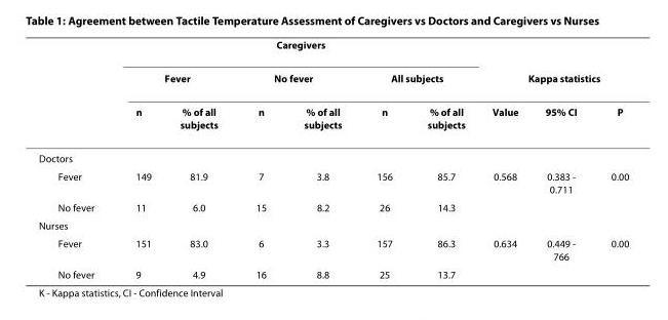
<table><thead><tr><td rowspan="3"></td><td colspan="6">Caregivers</td><td></td><td></td><td></td></tr><tr><td colspan="2">Fever</td><td colspan="2">No fever</td><td colspan="2">All subjects</td><td colspan="3">Kappa statistics</td></tr><tr><td>n</td><td>% of all subjects</td><td>n</td><td>% of all subjects</td><td>n</td><td>% of all subjects</td><td>Value</td><td>95% CI</td><td>P</td></tr></thead><tbody><tr><td colspan="10">Doctors</td></tr><tr><td>Fever</td><td>149</td><td>81.9</td><td>7</td><td>3.8</td><td>156</td><td>85.7</td><td>0.568</td><td>0.383 - 0.711</td><td>0.00</td></tr><tr><td>No fever</td><td>11</td><td>6.0</td><td>15</td><td>8.2</td><td>26</td><td>14.3</td><td></td><td></td><td></td></tr><tr><td colspan="10">Nurses</td></tr><tr><td>Fever</td><td>151</td><td>83.0</td><td>6</td><td>3.3</td><td>157</td><td>86.3</td><td>0.634</td><td>0.449 - 766</td><td>0.00</td></tr><tr><td>No fever</td><td>9</td><td>4.9</td><td>16</td><td>8.8</td><td>25</td><td>13.7</td><td></td><td></td><td></td></tr></tbody></table>